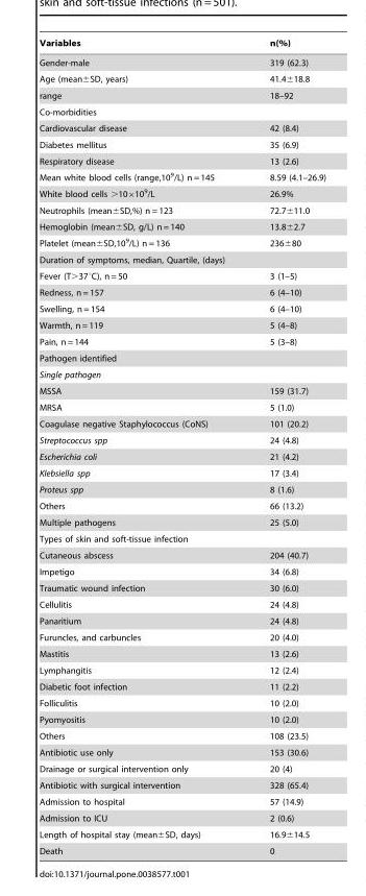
<table><thead><tr><td>Variables</td><td>n(%)</td></tr></thead><tbody><tr><td>Gender-male</td><td>319 (62.3)</td></tr><tr><td>Age (mean±SD, years)</td><td>41.4±18.8</td></tr><tr><td>range</td><td>18–92</td></tr><tr><td colspan="2">Co-morbidities</td></tr><tr><td>Cardiovascular disease</td><td>42 (8.4)</td></tr><tr><td>Diabetes mellitus</td><td>35 (6.9)</td></tr><tr><td>Respiratory disease</td><td>13 (2.6)</td></tr><tr><td>Mean white blood cells (range,10<sup>9</sup>/L) n = 145</td><td>8.59 (4.1–26.9)</td></tr><tr><td>White blood cells &gt;10×10<sup>9</sup>/L</td><td>26.9%</td></tr><tr><td>Neutrophils (mean±SD,%) n = 123</td><td>72.7±11.0</td></tr><tr><td>Hemoglobin (mean±SD, g/L) n = 140</td><td>13.8±2.7</td></tr><tr><td>Platelet (mean±SD,10<sup>9</sup>/L) n = 136</td><td>236±80</td></tr><tr><td colspan="2">Duration of symptoms, median, Quartile, (days)</td></tr><tr><td>Fever (T&gt;37°C), n = 50</td><td>3 (1–5)</td></tr><tr><td>Redness, n = 157</td><td>6 (4–10)</td></tr><tr><td>Swelling, n = 154</td><td>6 (4–10)</td></tr><tr><td>Warmth, n = 119</td><td>5 (4–8)</td></tr><tr><td>Pain, n = 144</td><td>5 (3–8)</td></tr><tr><td colspan="2">Pathogen identified</td></tr><tr><td colspan="2">Single pathogen</td></tr><tr><td>MSSA</td><td>159 (31.7)</td></tr><tr><td>MRSA</td><td>5 (1.0)</td></tr><tr><td>Coagulase negative Staphylococcus (CoNS)</td><td>101 (20.2)</td></tr><tr><td>Streptococcus spp</td><td>24 (4.8)</td></tr><tr><td>Escherichia coli</td><td>21 (4.2)</td></tr><tr><td>Klebsiella spp</td><td>17 (3.4)</td></tr><tr><td>Proteus spp</td><td>8 (1.6)</td></tr><tr><td>Others</td><td>66 (13.2)</td></tr><tr><td>Multiple pathogens</td><td>25 (5.0)</td></tr><tr><td colspan="2">Types of skin and soft-tissue infection</td></tr><tr><td>Cutaneous abscess</td><td>204 (40.7)</td></tr><tr><td>Impetigo</td><td>34 (6.8)</td></tr><tr><td>Traumatic wound infection</td><td>30 (6.0)</td></tr><tr><td>Cellulitis</td><td>24 (4.8)</td></tr><tr><td>Panaritium</td><td>24 (4.8)</td></tr><tr><td>Furuncles, and carbuncles</td><td>20 (4.0)</td></tr><tr><td>Mastitis</td><td>13 (2.6)</td></tr><tr><td>Lymphangitis</td><td>12 (2.4)</td></tr><tr><td>Diabetic foot infection</td><td>11 (2.2)</td></tr><tr><td>Folliculitis</td><td>10 (2.0)</td></tr><tr><td>Pyomyositis</td><td>10 (2.0)</td></tr><tr><td>Others</td><td>108 (23.5)</td></tr><tr><td>Antibiotic use only</td><td>153 (30.6)</td></tr><tr><td>Drainage or surgical intervention only</td><td>20 (4)</td></tr><tr><td>Antibiotic with surgical intervention</td><td>328 (65.4)</td></tr><tr><td>Admission to hospital</td><td>57 (14.9)</td></tr><tr><td>Admission to ICU</td><td>2 (0.6)</td></tr><tr><td>Length of hospital stay (mean±SD, days)</td><td>16.9±14.5</td></tr><tr><td>Death</td><td>0</td></tr></tbody></table>